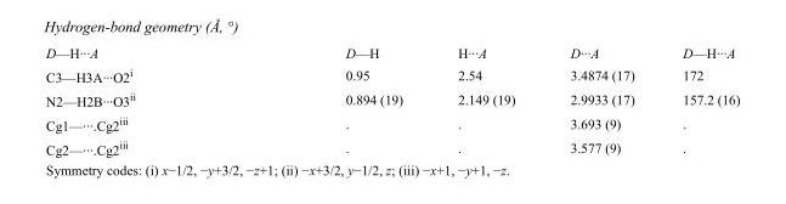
<table><tbody><tr><td>D—H···A</td><td>D—H</td><td>H···A</td><td>D···A</td><td>D—H···A</td></tr><tr><td>C3—H3A···O2<sup>i</sup></td><td>0.95</td><td>2.54</td><td>3.4874 (17)</td><td>172</td></tr><tr><td>N2—H2B···O3<sup>ii</sup></td><td>0.894 (19)</td><td>2.149 (19)</td><td>2.9933 (17)</td><td>157.2 (16)</td></tr><tr><td>Cg1—···.Cg2<sup>iii</sup></td><td>.</td><td>.</td><td>3.693 (9)</td><td>.</td></tr><tr><td>Cg2—···.Cg2<sup>iii</sup></td><td>.</td><td>.</td><td>3.577 (9)</td><td>.</td></tr></tbody></table>